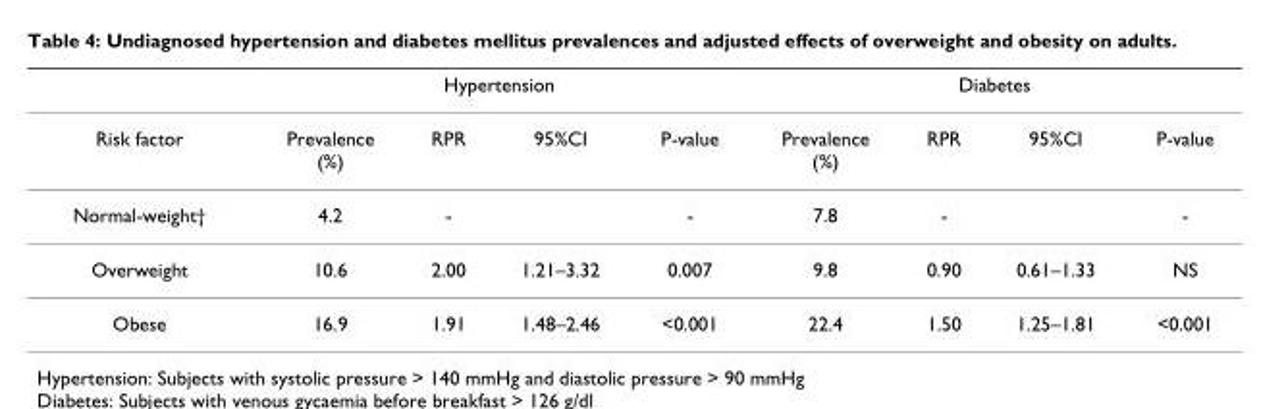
<table><thead><tr><td rowspan="2">Risk factor</td><td colspan="4">Hypertension</td><td colspan="4">Diabetes</td></tr><tr><td>Prevalence (%)</td><td>RPR</td><td>95%CI</td><td>P-value</td><td>Prevalence (%)</td><td>RPR</td><td>95%CI</td><td>P-value</td></tr></thead><tbody><tr><td>Normal-weight†</td><td>4.2</td><td>-</td><td></td><td>-</td><td>7.8</td><td>-</td><td></td><td>-</td></tr><tr><td>Overweight</td><td>10.6</td><td>2.00</td><td>1.21–3.32</td><td>0.007</td><td>9.8</td><td>0.90</td><td>0.61–1.33</td><td>NS</td></tr><tr><td>Obese</td><td>16.9</td><td>1.91</td><td>1.48–2.46</td><td>&lt;0.001</td><td>22.4</td><td>1.50</td><td>1.25–1.81</td><td>&lt;0.001</td></tr></tbody></table>